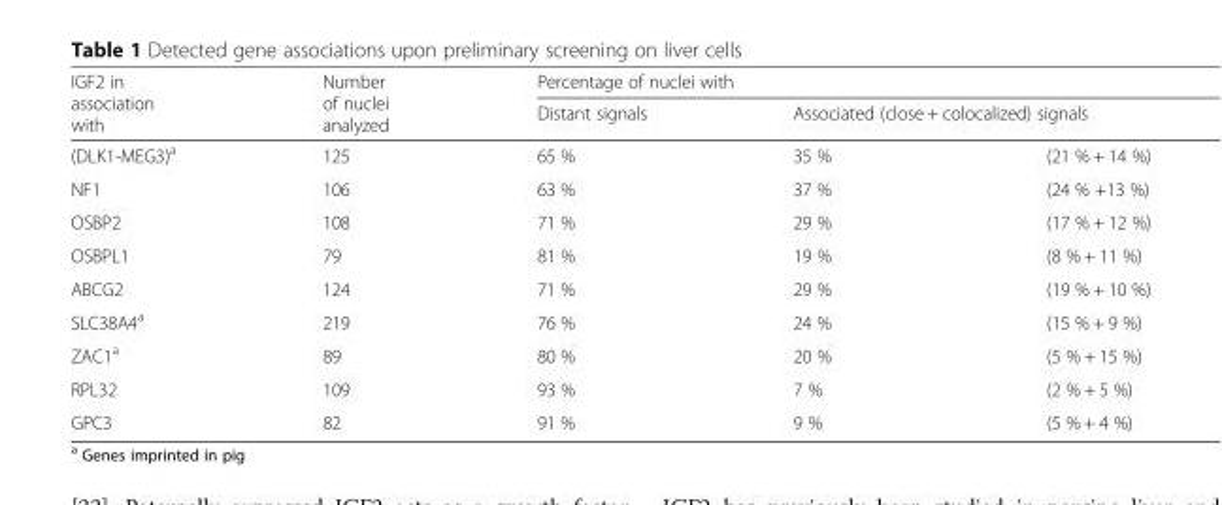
<table><thead><tr><td rowspan="3">IGF2 in association with (DLK1-MEG3)<sup>a</sup></td><td rowspan="3">Number of nuclei analyzed 125</td><td colspan="3">Percentage of nuclei with</td></tr><tr><td rowspan="2">Distant signals 65 %</td><td colspan="2">Associated (close + colocalized) signals</td></tr><tr><td>35 %</td><td>(21 % + 14 %)</td></tr></thead><tbody><tr><td>NF1</td><td>106</td><td>63 %</td><td>37 %</td><td>(24 % +13 %)</td></tr><tr><td>OSBP2</td><td>108</td><td>71 %</td><td>29 %</td><td>(17 % + 12 %)</td></tr><tr><td>OSBPL1</td><td>79</td><td>81 %</td><td>19 %</td><td>(8 % + 11 %)</td></tr><tr><td>ABCG2</td><td>124</td><td>71 %</td><td>29 %</td><td>(19 % + 10 %)</td></tr><tr><td>SLC38A4<sup>a</sup></td><td>219</td><td>76 %</td><td>24 %</td><td>(15 % + 9 %)</td></tr><tr><td>ZAC1<sup>a</sup></td><td>89</td><td>80 %</td><td>20 %</td><td>(5 % + 15 %)</td></tr><tr><td>RPL32</td><td>109</td><td>93 %</td><td>7 %</td><td>(2 % + 5 %)</td></tr><tr><td>GPC3</td><td>82</td><td>91 %</td><td>9 %</td><td>(5 % + 4 %)</td></tr></tbody></table>